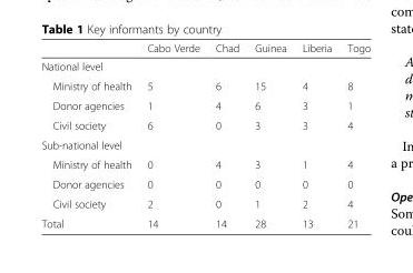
<table><thead><tr><td></td><td>Cabo Verde</td><td>Chad</td><td>Guinea</td><td>Liberia</td><td>Togo</td></tr></thead><tbody><tr><td colspan="6">National level</td></tr><tr><td>Ministry of health</td><td>5</td><td>6</td><td>15</td><td>4</td><td>8</td></tr><tr><td>Donor agencies</td><td>1</td><td>4</td><td>6</td><td>3</td><td>1</td></tr><tr><td>Civil society</td><td>6</td><td>0</td><td>3</td><td>3</td><td>4</td></tr><tr><td colspan="6">Sub-national level</td></tr><tr><td>Ministry of health</td><td>0</td><td>4</td><td>3</td><td>1</td><td>4</td></tr><tr><td>Donor agencies</td><td>0</td><td>0</td><td>0</td><td>0</td><td>0</td></tr><tr><td>Civil society</td><td>2</td><td>0</td><td>1</td><td>2</td><td>4</td></tr><tr><td>Total</td><td>14</td><td>14</td><td>28</td><td>13</td><td>21</td></tr></tbody></table>